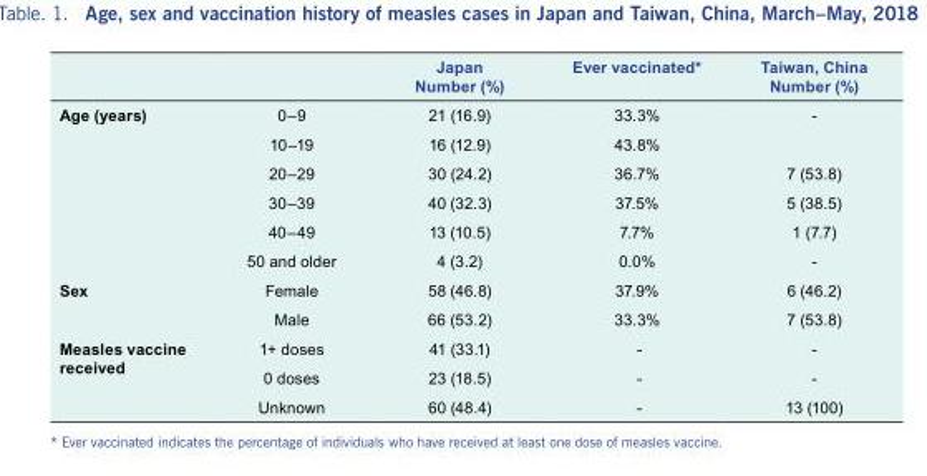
<table><thead><tr><td></td><td></td><td>Japan Number (%)</td><td>Ever vaccinated*</td><td>Taiwan, China Number (%)</td></tr></thead><tbody><tr><td rowspan="6">Age (years)</td><td>0–9</td><td>21 (16.9)</td><td>33.3%</td><td>-</td></tr><tr><td>10–19</td><td>16 (12.9)</td><td>43.8%</td><td></td></tr><tr><td>20–29</td><td>30 (24.2)</td><td>36.7%</td><td>7 (53.8)</td></tr><tr><td>30–39</td><td>40 (32.3)</td><td>37.5%</td><td>5 (38.5)</td></tr><tr><td>40–49</td><td>13 (10.5)</td><td>7.7%</td><td>1 (7.7)</td></tr><tr><td>50 and older</td><td>4 (3.2)</td><td>0.0%</td><td>-</td></tr><tr><td rowspan="2">Sex</td><td>Female</td><td>58 (46.8)</td><td>37.9%</td><td>6 (46.2)</td></tr><tr><td>Male</td><td>66 (53.2)</td><td>33.3%</td><td>7 (53.8)</td></tr><tr><td rowspan="3">Measles vaccine received</td><td>1+ doses</td><td>41 (33.1)</td><td>-</td><td>-</td></tr><tr><td>0 doses</td><td>23 (18.5)</td><td>-</td><td>-</td></tr><tr><td>Unknown</td><td>60 (48.4)</td><td>-</td><td>13 (100)</td></tr></tbody></table>